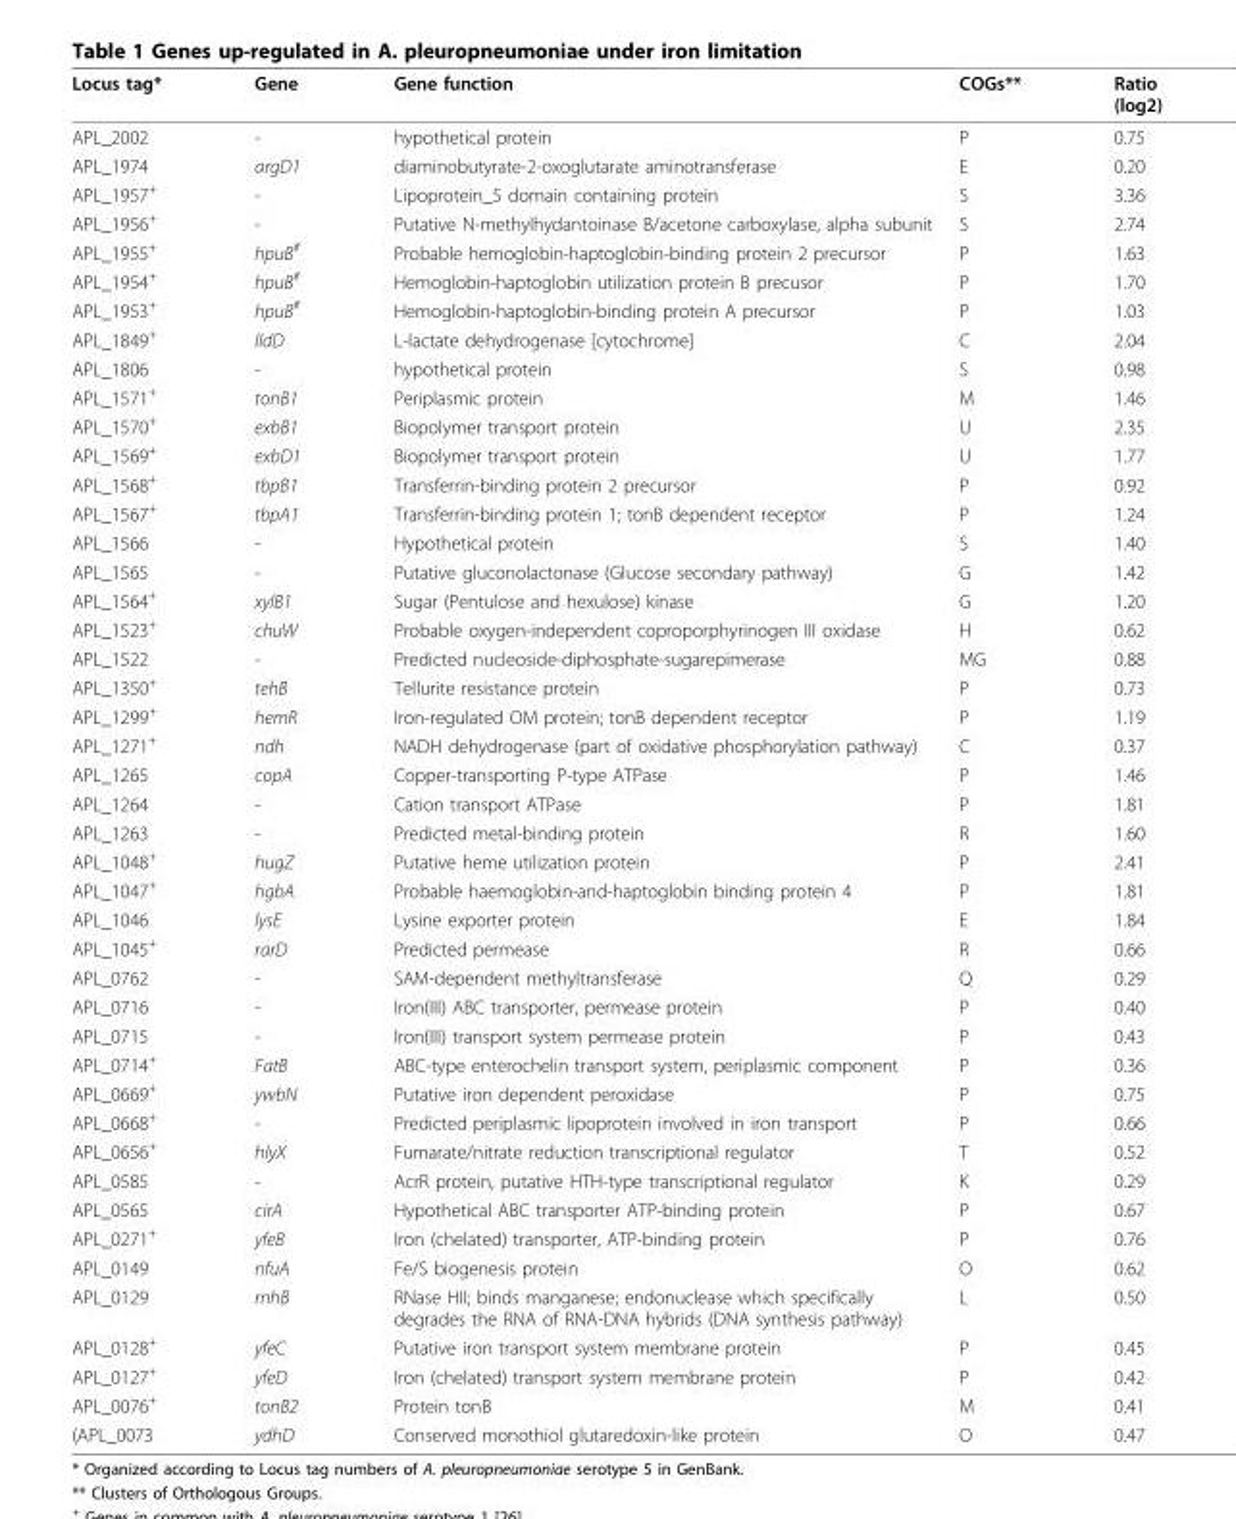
<table><thead><tr><td>Locus tag*</td><td>Gene</td><td>Gene function</td><td>COGs**</td><td>Ratio (log2)</td></tr></thead><tbody><tr><td>APL_2002</td><td>-</td><td>hypothetical protein</td><td>P</td><td>0.75</td></tr><tr><td>APL_1974</td><td>argD1</td><td>diaminobutyrate-2-oxoglutarate aminotransferase</td><td>E</td><td>0.20</td></tr><tr><td>APL_1957<sup>+</sup></td><td>-</td><td>Lipoprotein_5 domain containing protein</td><td>S</td><td>3.36</td></tr><tr><td>APL_1956<sup>+</sup></td><td>-</td><td>Putative N-methylhydantoinase B/acetone carboxylase, alpha subunit</td><td>S</td><td>2.74</td></tr><tr><td>APL_1955<sup>+</sup></td><td>hpuB<sup>#</sup></td><td>Probable hemoglobin-haptoglobin-binding protein 2 precursor</td><td>P</td><td>1.63</td></tr><tr><td>APL_1954<sup>+</sup></td><td>hpuB<sup>#</sup></td><td>Hemoglobin-haptoglobin utilization protein B precusor</td><td>P</td><td>1.70</td></tr><tr><td>APL_1953<sup>+</sup></td><td>hpuB<sup>#</sup></td><td>Hemoglobin-haptoglobin-binding protein A precursor</td><td>P</td><td>1.03</td></tr><tr><td>APL_1849<sup>+</sup></td><td>lldD</td><td>L-lactate dehydrogenase [cytochrome]</td><td>C</td><td>2.04</td></tr><tr><td>APL_1806</td><td>-</td><td>hypothetical protein</td><td>S</td><td>0.98</td></tr><tr><td>APL_1571<sup>+</sup></td><td>tonB1</td><td>Periplasmic protein</td><td>M</td><td>1.46</td></tr><tr><td>APL_1570<sup>+</sup></td><td>exbB1</td><td>Biopolymer transport protein</td><td>U</td><td>2.35</td></tr><tr><td>APL_1569<sup>+</sup></td><td>exbD1</td><td>Biopolymer transport protein</td><td>U</td><td>1.77</td></tr><tr><td>APL_1568<sup>+</sup></td><td>tbpB1</td><td>Transferrin-binding protein 2 precursor</td><td>P</td><td>0.92</td></tr><tr><td>APL_1567<sup>+</sup></td><td>tbpA1</td><td>Transferrin-binding protein 1; tonB dependent receptor</td><td>P</td><td>1.24</td></tr><tr><td>APL_1566</td><td>-</td><td>Hypothetical protein</td><td>S</td><td>1.40</td></tr><tr><td>APL_1565</td><td>-</td><td>Putative gluconolactonase (Glucose secondary pathway)</td><td>G</td><td>1.42</td></tr><tr><td>APL_1564<sup>+</sup></td><td>xylB1</td><td>Sugar (Pentulose and hexulose) kinase</td><td>G</td><td>1.20</td></tr><tr><td>APL_1523<sup>+</sup></td><td>chuW</td><td>Probable oxygen-independent coproporphyrinogen III oxidase</td><td>H</td><td>0.62</td></tr><tr><td>APL_1522</td><td>-</td><td>Predicted nucleoside-diphosphate-sugarepimerase</td><td>MG</td><td>0.88</td></tr><tr><td>APL_1350<sup>+</sup></td><td>tehB</td><td>Tellurite resistance protein</td><td>P</td><td>0.73</td></tr><tr><td>APL_1299<sup>+</sup></td><td>hemR</td><td>Iron-regulated OM protein; tonB dependent receptor</td><td>P</td><td>1.19</td></tr><tr><td>APL_1271<sup>+</sup></td><td>ndh</td><td>NADH dehydrogenase (part of oxidative phosphorylation pathway)</td><td>C</td><td>0.37</td></tr><tr><td>APL_1265</td><td>copA</td><td>Copper-transporting P-type ATPase</td><td>P</td><td>1.46</td></tr><tr><td>APL_1264</td><td>-</td><td>Cation transport ATPase</td><td>P</td><td>1.81</td></tr><tr><td>APL_1263</td><td>-</td><td>Predicted metal-binding protein</td><td>R</td><td>1.60</td></tr><tr><td>APL_1048<sup>+</sup></td><td>hugZ</td><td>Putative heme utilization protein</td><td>P</td><td>2.41</td></tr><tr><td>APL_1047<sup>+</sup></td><td>hgbA</td><td>Probable haemoglobin-and-haptoglobin binding protein 4</td><td>P</td><td>1.81</td></tr><tr><td>APL_1046</td><td>lysE</td><td>Lysine exporter protein</td><td>E</td><td>1.84</td></tr><tr><td>APL_1045<sup>+</sup></td><td>rarD</td><td>Predicted permease</td><td>R</td><td>0.66</td></tr><tr><td>APL_0762</td><td>-</td><td>SAM-dependent methyltransferase</td><td>Q</td><td>0.29</td></tr><tr><td>APL_0716</td><td>-</td><td>Iron(III) ABC transporter, permease protein</td><td>P</td><td>0.40</td></tr><tr><td>APL_0715</td><td>-</td><td>Iron(III) transport system permease protein</td><td>P</td><td>0.43</td></tr><tr><td>APL_0714<sup>+</sup></td><td>FatB</td><td>ABC-type enterochelin transport system, periplasmic component</td><td>P</td><td>0.36</td></tr><tr><td>APL_0669<sup>+</sup></td><td>ywbN</td><td>Putative iron dependent peroxidase</td><td>P</td><td>0.75</td></tr><tr><td>APL_0668<sup>+</sup></td><td>-</td><td>Predicted periplasmic lipoprotein involved in iron transport</td><td>P</td><td>0.66</td></tr><tr><td>APL_0656<sup>+</sup></td><td>hlyX</td><td>Fumarate/nitrate reduction transcriptional regulator</td><td>T</td><td>0.52</td></tr><tr><td>APL_0585</td><td>-</td><td>AcrR protein, putative HTH-type transcriptional regulator</td><td>K</td><td>0.29</td></tr><tr><td>APL_0565</td><td>cirA</td><td>Hypothetical ABC transporter ATP-binding protein</td><td>P</td><td>0.67</td></tr><tr><td>APL_0271<sup>+</sup></td><td>yfeB</td><td>Iron (chelated) transporter, ATP-binding protein</td><td>P</td><td>0.76</td></tr><tr><td>APL_0149</td><td>nfuA</td><td>Fe/S biogenesis protein</td><td>O</td><td>0.62</td></tr><tr><td>APL_0129</td><td>rnhB</td><td>RNase HII; binds manganese; endonuclease which specifically degrades the RNA of RNA-DNA hybrids (DNA synthesis pathway)</td><td>L</td><td>0.50</td></tr><tr><td>APL_0128<sup>+</sup></td><td>yfeC</td><td>Putative iron transport system membrane protein</td><td>P</td><td>0.45</td></tr><tr><td>APL_0127<sup>+</sup></td><td>yfeD</td><td>Iron (chelated) transport system membrane protein</td><td>P</td><td>0.42</td></tr><tr><td>APL_0076<sup>+</sup></td><td>tonB2</td><td>Protein tonB</td><td>M</td><td>0.41</td></tr><tr><td>(APL_0073</td><td>ydhD</td><td>Conserved monothiol glutaredoxin-like protein</td><td>O</td><td>0.47</td></tr></tbody></table>